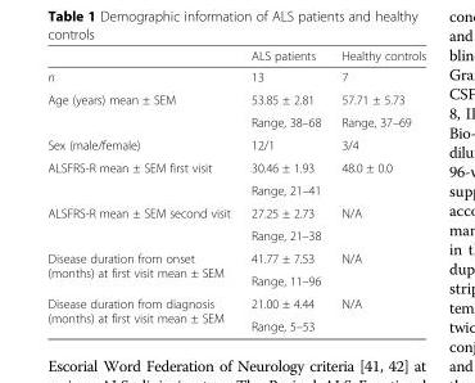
<table><thead><tr><td></td><td>ALS patients</td><td>Healthy controls</td></tr></thead><tbody><tr><td>n</td><td>13</td><td>7</td></tr><tr><td rowspan="2">Age (years) mean ± SEM</td><td>53.85 ± 2.81</td><td>57.71 ± 5.73</td></tr><tr><td>Range, 38–68</td><td>Range, 37–69</td></tr><tr><td>Sex (male/female)</td><td>12/1</td><td>3/4</td></tr><tr><td rowspan="2">ALSFRS-R mean ± SEM first visit</td><td>30.46 ± 1.93</td><td rowspan="2">48.0 ± 0.0</td></tr><tr><td>Range, 21–41</td></tr><tr><td rowspan="2">ALSFRS-R mean ± SEM second visit</td><td>27.25 ± 2.73</td><td rowspan="2">N/A</td></tr><tr><td>Range, 21–38</td></tr><tr><td rowspan="2">Disease duration from onset (months) at first visit mean ± SEM</td><td>41.77 ± 7.53</td><td rowspan="2">N/A</td></tr><tr><td>Range, 11–96</td></tr><tr><td rowspan="2">Disease duration from diagnosis (months) at first visit mean ± SEM</td><td>21.00 ± 4.44</td><td rowspan="2">N/A</td></tr><tr><td>Range, 5–53</td></tr></tbody></table>